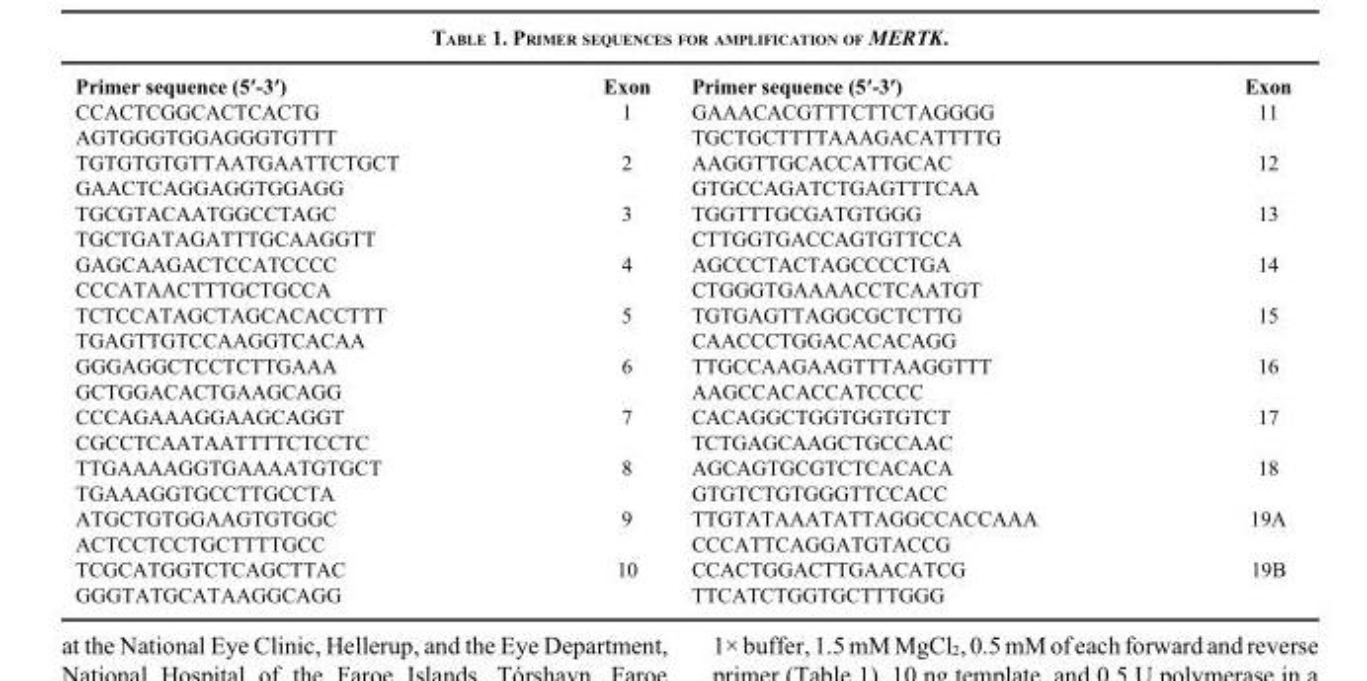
<table><thead><tr><td>Primer sequence (5′-3′)</td><td>Exon</td><td>Primer sequence (5′-3′)</td><td>Exon</td></tr></thead><tbody><tr><td>CCACTCGGCACTCACTG</td><td>1</td><td>GAAACACGTTTCTTCTAGGGG</td><td>11</td></tr><tr><td>AGTGGGTGGAGGGTGTTT</td><td></td><td>TGCTGCTTTTAAAGACATTTTG</td><td></td></tr><tr><td>TGTGTGTGTTAATGAATTCTGCT</td><td>2</td><td>AAGGTTGCACCATTGCAC</td><td>12</td></tr><tr><td>GAACTCAGGAGGTGGAGG</td><td></td><td>GTGCCAGATCTGAGTTTCAA</td><td></td></tr><tr><td>TGCGTACAATGGCCTAGC</td><td>3</td><td>TGGTTTGCGATGTGGG</td><td>13</td></tr><tr><td>TGCTGATAGATTTGCAAGGTT</td><td></td><td>CTTGGTGACCAGTGTTCCA</td><td></td></tr><tr><td>GAGCAAGACTCCATCCCC</td><td>4</td><td>AGCCCTACTAGCCCCTGA</td><td>14</td></tr><tr><td>CCCATAACTTTGCTGCCA</td><td></td><td>CTGGGTGAAAACCTCAATGT</td><td></td></tr><tr><td>TCTCCATAGCTAGCACACCTTT</td><td>5</td><td>TGTGAGTTAGGCGCTCTTG</td><td>15</td></tr><tr><td>TGAGTTGTCCAAGGTCACAA</td><td></td><td>CAACCCTGGACACACAGG</td><td></td></tr><tr><td>GGGAGGCTCCTCTTGAAA</td><td>6</td><td>TTGCCAAGAAGTTTAAGGTTT</td><td>16</td></tr><tr><td>GCTGGACACTGAAGCAGG</td><td></td><td>AAGCCACACCATCCCC</td><td></td></tr><tr><td>CCCAGAAAGGAAGCAGGT</td><td>7</td><td>CACAGGCTGGTGGTGTCT</td><td>17</td></tr><tr><td>CGCCTCAATAATTTTCTCCTC</td><td></td><td>TCTGAGCAAGCTGCCAAC</td><td></td></tr><tr><td>TTGAAAAGGTGAAAATGTGCT</td><td>8</td><td>AGCAGTGCGTCTCACACA</td><td>18</td></tr><tr><td>TGAAAGGTGCCTTGCCTA</td><td></td><td>GTGTCTGTGGGTTCCACC</td><td></td></tr><tr><td>ATGCTGTGGAAGTGTGGC</td><td>9</td><td>TTGTATAAATATTAGGCCACCAAA</td><td>19A</td></tr><tr><td>ACTCCTCCTGCTTTTGCC</td><td></td><td>CCCATTCAGGATGTACCG</td><td></td></tr><tr><td>TCGCATGGTCTCAGCTTAC</td><td>10</td><td>CCACTGGACTTGAACATCG</td><td>19B</td></tr><tr><td>GGGTATGCATAAGGCAGG</td><td></td><td>TTCATCTGGTGCTTTGGG</td><td></td></tr></tbody></table>